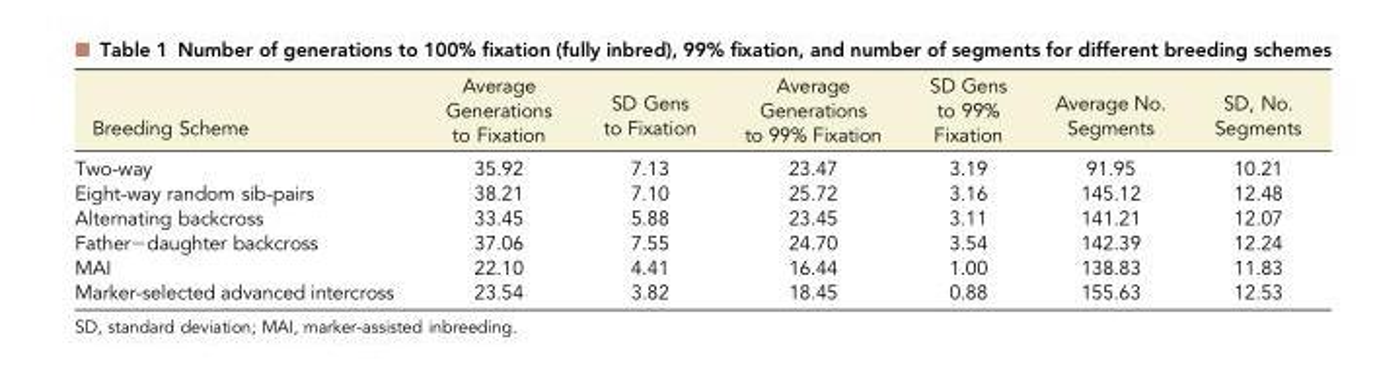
<table><thead><tr><td>Breeding Scheme</td><td>Average Generations to Fixation</td><td>SD Gens to Fixation</td><td>Average Generations to 99% Fixation</td><td>SD Gens to 99% Fixation</td><td>Average No. Segments</td><td>SD, No. Segments</td></tr></thead><tbody><tr><td>Two-way</td><td>35.92</td><td>7.13</td><td>23.47</td><td>3.19</td><td>91.95</td><td>10.21</td></tr><tr><td>Eight-way random sib-pairs</td><td>38.21</td><td>7.10</td><td>25.72</td><td>3.16</td><td>145.12</td><td>12.48</td></tr><tr><td>Alternating backcross</td><td>33.45</td><td>5.88</td><td>23.45</td><td>3.11</td><td>141.21</td><td>12.07</td></tr><tr><td>Father−daughter backcross</td><td>37.06</td><td>7.55</td><td>24.70</td><td>3.54</td><td>142.39</td><td>12.24</td></tr><tr><td>MAI</td><td>22.10</td><td>4.41</td><td>16.44</td><td>1.00</td><td>138.83</td><td>11.83</td></tr><tr><td>Marker-selected advanced intercross</td><td>23.54</td><td>3.82</td><td>18.45</td><td>0.88</td><td>155.63</td><td>12.53</td></tr></tbody></table>